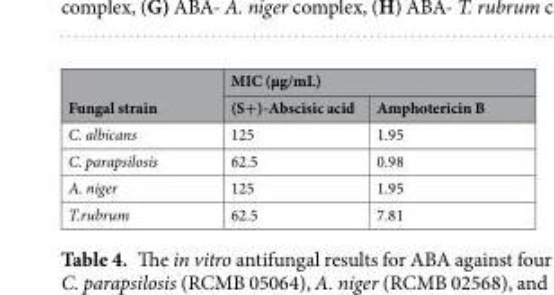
<table><thead><tr><td rowspan="2">Fungal strain</td><td colspan="2">MIC (µg/mL)</td></tr><tr><td>(S+)-Abscisic acid</td><td>Amphotericin B</td></tr></thead><tbody><tr><td>C. albicans</td><td>125</td><td>1.95</td></tr><tr><td>C. parapsilosis</td><td>62.5</td><td>0.98</td></tr><tr><td>A. niger</td><td>125</td><td>1.95</td></tr><tr><td>T.rubrum</td><td>62.5</td><td>7.81</td></tr></tbody></table>